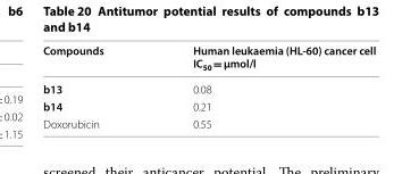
<table><thead><tr><td>Compounds</td><td>Human leukaemia (HL-60) cancer cell IC<sub>50</sub> = µmol/l</td></tr></thead><tbody><tr><td>b13</td><td>0.08</td></tr><tr><td>b14</td><td>0.21</td></tr><tr><td>Doxorubicin</td><td>0.55</td></tr></tbody></table>